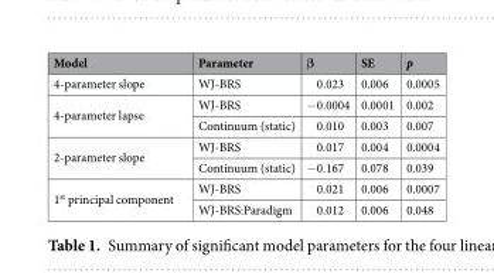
<table><thead><tr><td>Model</td><td>Parameter</td><td>β</td><td>SE</td><td>p</td></tr></thead><tbody><tr><td>4-parameter slope</td><td>WJ-BRS</td><td>0.023</td><td>0.006</td><td>0.0005</td></tr><tr><td rowspan="2">4-parameter lapse</td><td>WJ-BRS</td><td>−0.0004</td><td>0.0001</td><td>0.002</td></tr><tr><td>Continuum (static)</td><td>0.010</td><td>0.003</td><td>0.007</td></tr><tr><td rowspan="2">2-parameter slope</td><td>WJ-BRS</td><td>0.017</td><td>0.004</td><td>0.0004</td></tr><tr><td>Continuum (static)</td><td>−0.167</td><td>0.078</td><td>0.039</td></tr><tr><td rowspan="2">1<sup>st</sup> principal component</td><td>WJ-BRS</td><td>0.021</td><td>0.006</td><td>0.0007</td></tr><tr><td>WJ-BRS:Paradigm</td><td>0.012</td><td>0.006</td><td>0.048</td></tr></tbody></table>